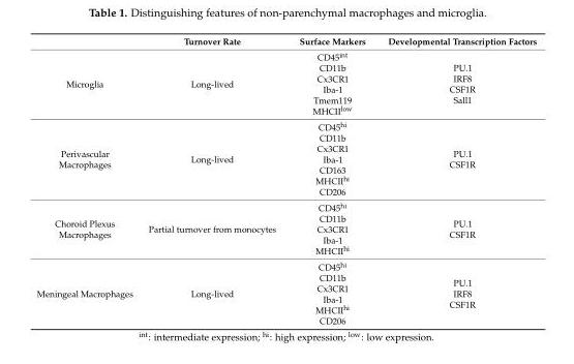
<table><thead><tr><td></td><td>Turnover Rate</td><td>Surface Markers</td><td>Developmental Transcription Factors</td></tr></thead><tbody><tr><td>Microglia</td><td>Long-lived</td><td>CD45<sup>int</sup> CD11b Cx3CR1 Iba-1 Tmem119 MHCII<sup>low</sup></td><td>PU.1 IRF8 CSF1R Sall1</td></tr><tr><td>Perivascular Macrophages</td><td>Long-lived</td><td>CD45<sup>hi</sup> CD11b Cx3CR1 Iba-1 CD163 MHCII<sup>hi</sup> CD206</td><td>PU.1 CSF1R</td></tr><tr><td>Choroid Plexus Macrophages</td><td>Partial turnover from monocytes</td><td>CD45<sup>hi</sup> CD11b Cx3CR1 Iba-1 MHCII<sup>hi</sup></td><td>PU.1 CSF1R</td></tr><tr><td>Meningeal Macrophages</td><td>Long-lived</td><td>CD45<sup>hi</sup> CD11b Cx3CR1 Iba-1 MHCII<sup>hi</sup> CD206</td><td>PU.1 IRF8 CSF1R</td></tr></tbody></table>